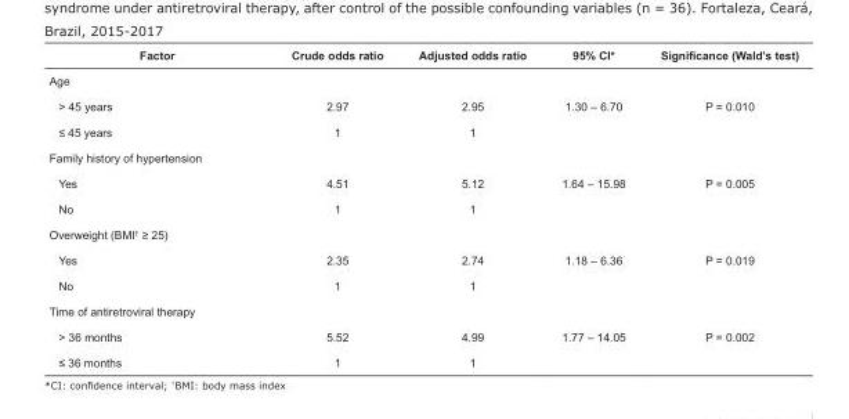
<table><tbody><tr><td>Factor</td><td>Crude odds ratio</td><td>Adjusted odds ratio</td><td>95% CI*</td><td>Significance (Wald’s test)</td></tr><tr><td colspan="5">Age</td></tr><tr><td>&gt; 45 years</td><td>2.97</td><td>2.95</td><td>1.30 – 6.70</td><td>P = 0.010</td></tr><tr><td>≤ 45 years</td><td>1</td><td>1</td><td></td><td></td></tr><tr><td colspan="5">Family history of hypertension</td></tr><tr><td>Yes</td><td>4.51</td><td>5.12</td><td>1.64 – 15.98</td><td>P = 0.005</td></tr><tr><td>No</td><td>1</td><td>1</td><td></td><td></td></tr><tr><td colspan="5">Overweight (BMI<sup>†</sup> ≥ 25)</td></tr><tr><td>Yes</td><td>2.35</td><td>2.74</td><td>1.18 – 6.36</td><td>P = 0.019</td></tr><tr><td>No</td><td>1</td><td>1</td><td></td><td></td></tr><tr><td colspan="5">Time of antiretroviral therapy</td></tr><tr><td>&gt; 36 months</td><td>5.52</td><td>4.99</td><td>1.77 – 14.05</td><td>P = 0.002</td></tr><tr><td>≤ 36 months</td><td>1</td><td>1</td><td></td><td></td></tr></tbody></table>